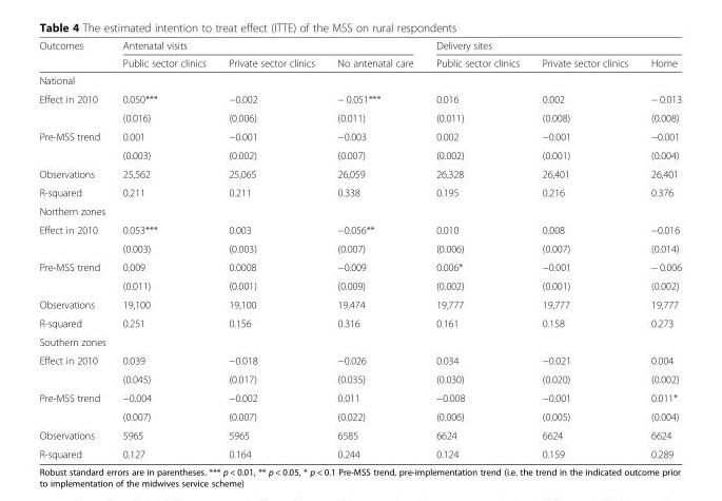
<table><thead><tr><td rowspan="2">Outcomes</td><td colspan="3">Antenatal visits</td><td colspan="3">Delivery sites</td></tr><tr><td>Public sector clinics</td><td>Private sector clinics</td><td>No antenatal care</td><td>Public sector clinics</td><td>Private sector clinics</td><td>Home</td></tr></thead><tbody><tr><td colspan="7">National</td></tr><tr><td rowspan="2">Effect in 2010</td><td>0.050***</td><td>−0.002</td><td>− 0.051***</td><td>0.016</td><td>0.002</td><td>− 0.013</td></tr><tr><td>(0.016)</td><td>(0.006)</td><td>(0.011)</td><td>(0.011)</td><td>(0.008)</td><td>(0.008)</td></tr><tr><td rowspan="2">Pre-MSS trend</td><td>0.001</td><td>−0.001</td><td>−0.003</td><td>0.002</td><td>−0.001</td><td>−0.001</td></tr><tr><td>(0.003)</td><td>(0.002)</td><td>(0.007)</td><td>(0.002)</td><td>(0.001)</td><td>(0.004)</td></tr><tr><td>Observations</td><td>25,562</td><td>25,065</td><td>26,059</td><td>26,328</td><td>26,401</td><td>26,401</td></tr><tr><td>R-squared</td><td>0.211</td><td>0.211</td><td>0.338</td><td>0.195</td><td>0.216</td><td>0.376</td></tr><tr><td colspan="7">Northern zones</td></tr><tr><td rowspan="2">Effect in 2010</td><td>0.053***</td><td>0.003</td><td>−0.056**</td><td>0.010</td><td>0.008</td><td>−0.016</td></tr><tr><td>(0.003)</td><td>(0.003)</td><td>(0.007)</td><td>(0.006)</td><td>(0.007)</td><td>(0.014)</td></tr><tr><td rowspan="2">Pre-MSS trend</td><td>0.009</td><td>0.0008</td><td>−0.009</td><td>0.006*</td><td>−0.001</td><td>− 0.006</td></tr><tr><td>(0.011)</td><td>(0.001)</td><td>(0.009)</td><td>(0.002)</td><td>(0.001)</td><td>(0.002)</td></tr><tr><td>Observations</td><td>19,100</td><td>19,100</td><td>19,474</td><td>19,777</td><td>19,777</td><td>19,777</td></tr><tr><td>R-squared</td><td>0.251</td><td>0.156</td><td>0.316</td><td>0.161</td><td>0.158</td><td>0.273</td></tr><tr><td colspan="7">Southern zones</td></tr><tr><td rowspan="2">Effect in 2010</td><td>0.039</td><td>−0.018</td><td>−0.026</td><td>0.034</td><td>−0.021</td><td>0.004</td></tr><tr><td>(0.045)</td><td>(0.017)</td><td>(0.035)</td><td>(0.030)</td><td>(0.020)</td><td>(0.002)</td></tr><tr><td rowspan="2">Pre-MSS trend</td><td>−0.004</td><td>−0.002</td><td>0.011</td><td>−0.008</td><td>−0.001</td><td>0.011*</td></tr><tr><td>(0.007)</td><td>(0.007)</td><td>(0.022)</td><td>(0.006)</td><td>(0.005)</td><td>(0.004)</td></tr><tr><td>Observations</td><td>5965</td><td>5965</td><td>6585</td><td>6624</td><td>6624</td><td>6624</td></tr><tr><td>R-squared</td><td>0.127</td><td>0.164</td><td>0.244</td><td>0.124</td><td>0.159</td><td>0.289</td></tr></tbody></table>